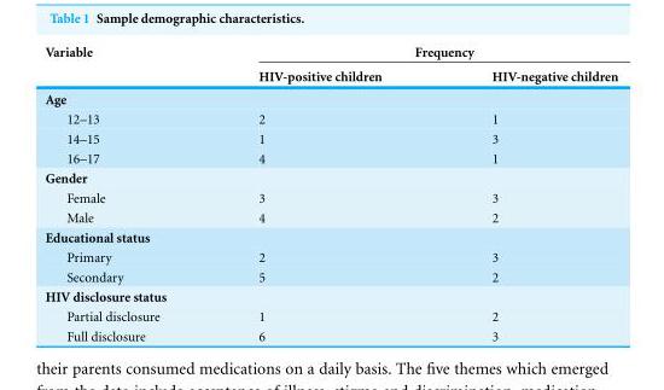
<table><thead><tr><td rowspan="2">Variable</td><td colspan="2">Frequency</td></tr><tr><td>HIV-positive children</td><td>HIV-negative children</td></tr></thead><tbody><tr><td colspan="3">Age</td></tr><tr><td>12–13</td><td>2</td><td>1</td></tr><tr><td>14–15</td><td>1</td><td>3</td></tr><tr><td>16–17</td><td>4</td><td>1</td></tr><tr><td colspan="3">Gender</td></tr><tr><td>Female</td><td>3</td><td>3</td></tr><tr><td>Male</td><td>4</td><td>2</td></tr><tr><td colspan="3">Educational status</td></tr><tr><td>Primary</td><td>2</td><td>3</td></tr><tr><td>Secondary</td><td>5</td><td>2</td></tr><tr><td colspan="3">HIV disclosure status</td></tr><tr><td>Partial disclosure</td><td>1</td><td>2</td></tr><tr><td>Full disclosure</td><td>6</td><td>3</td></tr></tbody></table>